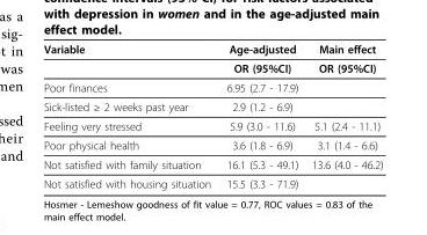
<table><thead><tr><td>Variable</td><td>Age-adjusted</td><td>Main effect</td></tr></thead><tbody><tr><td></td><td>OR (95%CI)</td><td>OR (95%CI)</td></tr><tr><td>Poor finances</td><td>6.95 (2.7 - 17.9)</td><td></td></tr><tr><td>Sick-listed ≥ 2 weeks past year</td><td>2.9 (1.2 - 6.9)</td><td></td></tr><tr><td>Feeling very stressed</td><td>5.9 (3.0 - 11.6)</td><td>5.1 (2.4 - 11.1)</td></tr><tr><td>Poor physical health</td><td>3.6 (1.8 - 6.9)</td><td>3.1 (1.4 - 6.6)</td></tr><tr><td>Not satisfied with family situation</td><td>16.1 (5.3 - 49.1)</td><td>13.6 (4.0 - 46.2)</td></tr><tr><td>Not satisfied with housing situation</td><td>15.5 (3.3 - 71.9)</td><td></td></tr></tbody></table>